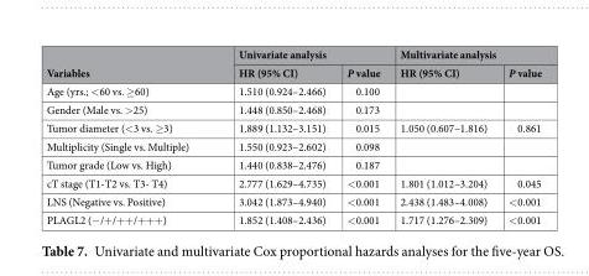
<table><thead><tr><td rowspan="2">Variables</td><td colspan="2">Univariate analysis</td><td colspan="2">Multivariate analysis</td></tr><tr><td>HR (95% CI)</td><td>P value</td><td>HR (95% CI)</td><td>P value</td></tr></thead><tbody><tr><td>Age (yrs.; &lt;60 vs. ≥60)</td><td>1.510 (0.924–2.466)</td><td>0.100</td><td></td><td></td></tr><tr><td>Gender (Male vs. &gt;25)</td><td>1.448 (0.850–2.468)</td><td>0.173</td><td></td><td></td></tr><tr><td>Tumor diameter (&lt;3 vs. ≥3)</td><td>1.889 (1.132–3.151)</td><td>0.015</td><td>1.050 (0.607–1.816)</td><td>0.861</td></tr><tr><td>Multiplicity (Single vs. Multiple)</td><td>1.550 (0.923–2.602)</td><td>0.098</td><td></td><td></td></tr><tr><td>Tumor grade (Low vs. High)</td><td>1.440 (0.838–2.476)</td><td>0.187</td><td></td><td></td></tr><tr><td>cT stage (T1-T2 vs. T3- T4)</td><td>2.777 (1.629–4.735)</td><td>&lt;0.001</td><td>1.801 (1.012–3.204)</td><td>0.045</td></tr><tr><td>LNS (Negative vs. Positive)</td><td>3.042 (1.873–4.940)</td><td>&lt;0.001</td><td>2.438 (1.483–4.008)</td><td>&lt;0.001</td></tr><tr><td>PLAGL2 (−/+/++/+++)</td><td>1.852 (1.408–2.436)</td><td>&lt;0.001</td><td>1.717 (1.276–2.309)</td><td>&lt;0.001</td></tr></tbody></table>